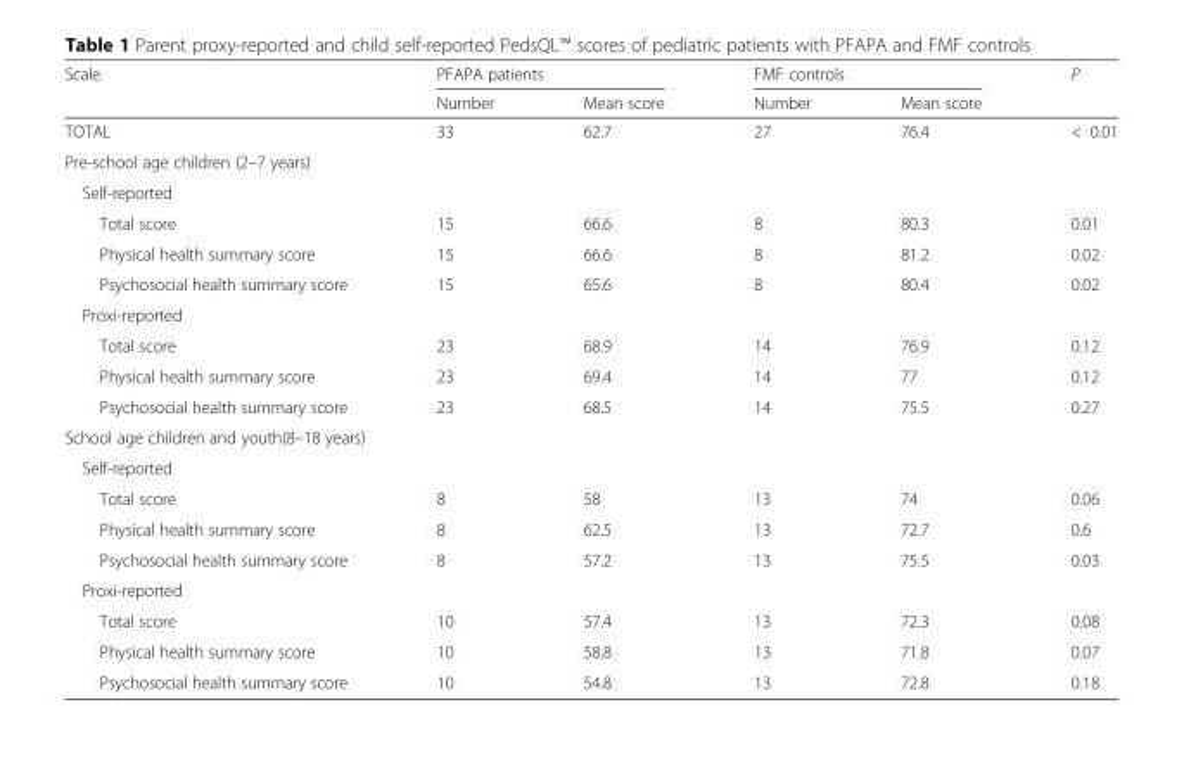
<table><thead><tr><td rowspan="2">Scale</td><td colspan="2">PFAPA patients</td><td colspan="2">FMF controls</td><td rowspan="2">P</td></tr><tr><td>Number</td><td>Mean score</td><td>Number</td><td>Mean score</td></tr></thead><tbody><tr><td>TOTAL</td><td>33</td><td>62.7</td><td>27</td><td>76.4</td><td>&lt; 0.01</td></tr><tr><td colspan="6">Pre-school age children (2–7 years)</td></tr><tr><td colspan="6">Self-reported</td></tr><tr><td>Total score</td><td>15</td><td>66.6</td><td>8</td><td>80.3</td><td>0.01</td></tr><tr><td>Physical health summary score</td><td>15</td><td>66.6</td><td>8</td><td>81.2</td><td>0.02</td></tr><tr><td>Psychosocial health summary score</td><td>15</td><td>65.6</td><td>8</td><td>80.4</td><td>0.02</td></tr><tr><td colspan="6">Proxi-reported</td></tr><tr><td>Total score</td><td>23</td><td>68.9</td><td>14</td><td>76.9</td><td>0.12</td></tr><tr><td>Physical health summary score</td><td>23</td><td>69.4</td><td>14</td><td>77</td><td>0.12</td></tr><tr><td>Psychosocial health summary score</td><td>23</td><td>68.5</td><td>14</td><td>75.5</td><td>0.27</td></tr><tr><td colspan="6">School age children and youth(8–18 years)</td></tr><tr><td colspan="6">Self-reported</td></tr><tr><td>Total score</td><td>8</td><td>58</td><td>13</td><td>74</td><td>0.06</td></tr><tr><td>Physical health summary score</td><td>8</td><td>62.5</td><td>13</td><td>72.7</td><td>0.6</td></tr><tr><td>Psychosocial health summary score</td><td>8</td><td>57.2</td><td>13</td><td>75.5</td><td>0.03</td></tr><tr><td colspan="6">Proxi-reported</td></tr><tr><td>Total score</td><td>10</td><td>57.4</td><td>13</td><td>72.3</td><td>0.08</td></tr><tr><td>Physical health summary score</td><td>10</td><td>58.8</td><td>13</td><td>71.8</td><td>0.07</td></tr><tr><td>Psychosocial health summary score</td><td>10</td><td>54.8</td><td>13</td><td>72.8</td><td>0.18</td></tr></tbody></table>